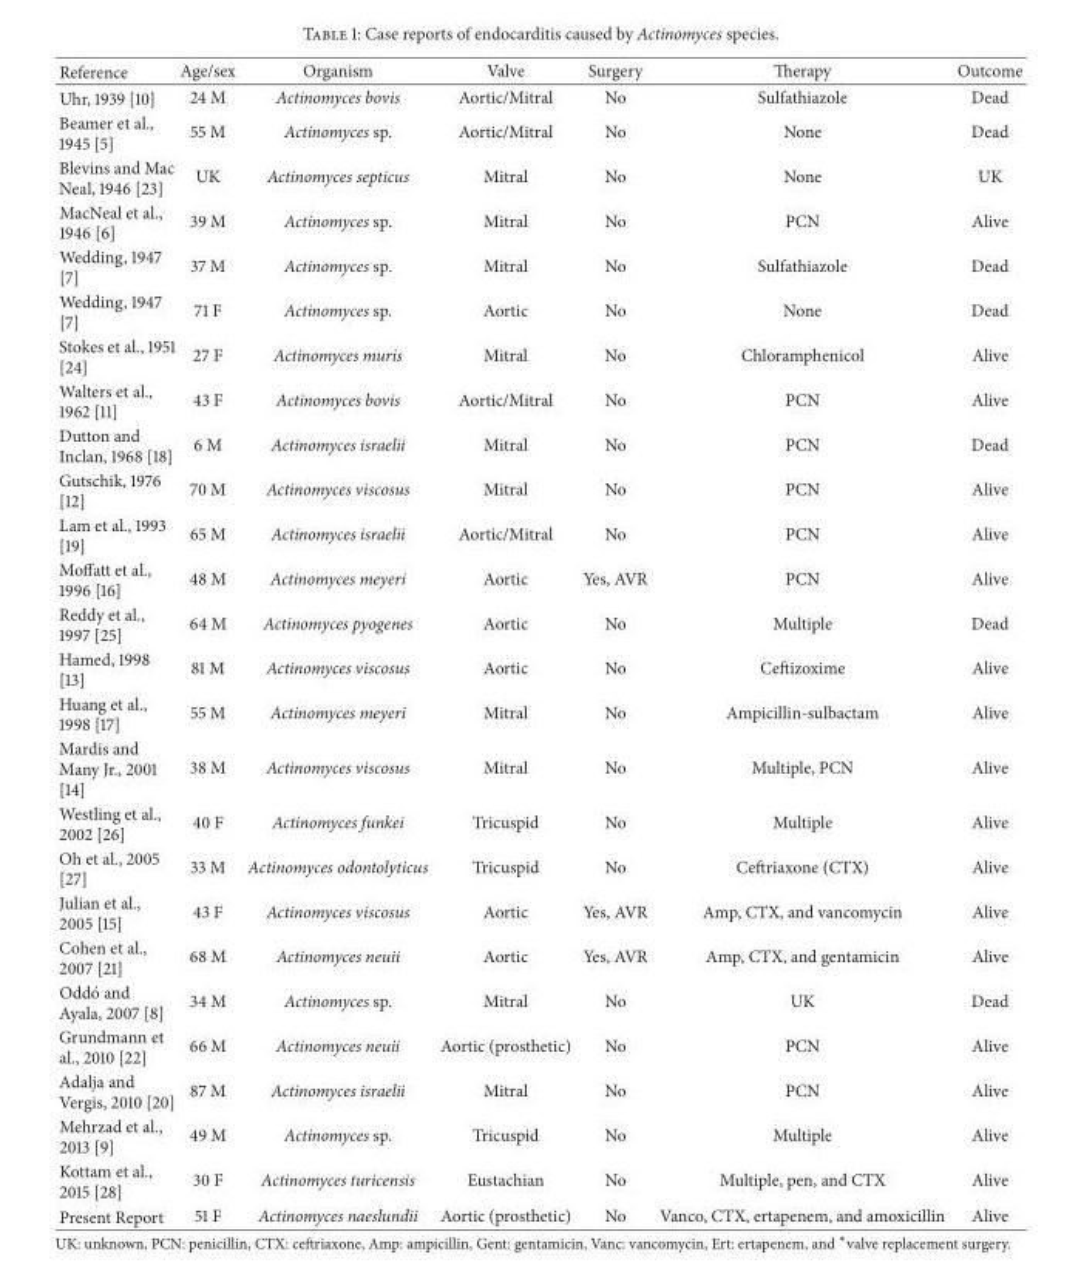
<table><thead><tr><td>Reference</td><td>Age/sex</td><td>Organism</td><td>Valve</td><td>Surgery</td><td>Therapy</td><td>Outcome</td></tr></thead><tbody><tr><td>Uhr, 1939 [10]</td><td>24 M</td><td>Actinomyces bovis</td><td>Aortic/Mitral</td><td>No</td><td>Sulfathiazole</td><td>Dead</td></tr><tr><td>Beamer et al., 1945 [5]</td><td>55 M</td><td>Actinomyces sp.</td><td>Aortic/Mitral</td><td>No</td><td>None</td><td>Dead</td></tr><tr><td>Blevins and Mac Neal, 1946 [23]</td><td>UK</td><td>Actinomyces septicus</td><td>Mitral</td><td>No</td><td>None</td><td>UK</td></tr><tr><td>MacNeal et al., 1946 [6]</td><td>39 M</td><td>Actinomyces sp.</td><td>Mitral</td><td>No</td><td>PCN</td><td>Alive</td></tr><tr><td>Wedding, 1947 [7]</td><td>37 M</td><td>Actinomyces sp.</td><td>Mitral</td><td>No</td><td>Sulfathiazole</td><td>Dead</td></tr><tr><td>Wedding, 1947 [7]</td><td>71 F</td><td>Actinomyces sp.</td><td>Aortic</td><td>No</td><td>None</td><td>Dead</td></tr><tr><td>Stokes et al., 1951 [24]</td><td>27 F</td><td>Actinomyces muris</td><td>Mitral</td><td>No</td><td>Chloramphenicol</td><td>Alive</td></tr><tr><td>Walters et al., 1962 [11]</td><td>43 F</td><td>Actinomyces bovis</td><td>Aortic/Mitral</td><td>No</td><td>PCN</td><td>Alive</td></tr><tr><td>Dutton and Inclan, 1968 [18]</td><td>6 M</td><td>Actinomyces israelii</td><td>Mitral</td><td>No</td><td>PCN</td><td>Dead</td></tr><tr><td>Gutschik, 1976 [12]</td><td>70 M</td><td>Actinomyces viscosus</td><td>Mitral</td><td>No</td><td>PCN</td><td>Alive</td></tr><tr><td>Lam et al., 1993 [19]</td><td>65 M</td><td>Actinomyces israelii</td><td>Aortic/Mitral</td><td>No</td><td>PCN</td><td>Alive</td></tr><tr><td>Moffatt et al., 1996 [16]</td><td>48 M</td><td>Actinomyces meyeri</td><td>Aortic</td><td>Yes, AVR</td><td>PCN</td><td>Alive</td></tr><tr><td>Reddy et al., 1997 [25]</td><td>64 M</td><td>Actinomyces pyogenes</td><td>Aortic</td><td>No</td><td>Multiple</td><td>Dead</td></tr><tr><td>Hamed, 1998 [13]</td><td>81 M</td><td>Actinomyces viscosus</td><td>Aortic</td><td>No</td><td>Ceftizoxime</td><td>Alive</td></tr><tr><td>Huang et al., 1998 [17]</td><td>55 M</td><td>Actinomyces meyeri</td><td>Mitral</td><td>No</td><td>Ampicillin-sulbactam</td><td>Alive</td></tr><tr><td>Mardis and Many Jr., 2001 [14]</td><td>38 M</td><td>Actinomyces viscosus</td><td>Mitral</td><td>No</td><td>Multiple, PCN</td><td>Alive</td></tr><tr><td>Westling et al., 2002 [26]</td><td>40 F</td><td>Actinomyces funkei</td><td>Tricuspid</td><td>No</td><td>Multiple</td><td>Alive</td></tr><tr><td>Oh et al., 2005 [27]</td><td>33 M</td><td>Actinomyces odontolyticus</td><td>Tricuspid</td><td>No</td><td>Ceftriaxone (CTX)</td><td>Alive</td></tr><tr><td>Julian et al., 2005 [15]</td><td>43 F</td><td>Actinomyces viscosus</td><td>Aortic</td><td>Yes, AVR</td><td>Amp, CTX, and vancomycin</td><td>Alive</td></tr><tr><td>Cohen et al., 2007 [21]</td><td>68 M</td><td>Actinomyces neuii</td><td>Aortic</td><td>Yes, AVR</td><td>Amp, CTX, and gentamicin</td><td>Alive</td></tr><tr><td>Odd´o and Ayala, 2007 [8]</td><td>34 M</td><td>Actinomyces sp.</td><td>Mitral</td><td>No</td><td>UK</td><td>Dead</td></tr><tr><td>Grundmann et al., 2010 [22]</td><td>66 M</td><td>Actinomyces neuii</td><td>Aortic (prosthetic)</td><td>No</td><td>PCN</td><td>Alive</td></tr><tr><td>Adalja and Vergis, 2010 [20]</td><td>87 M</td><td>Actinomyces israelii</td><td>Mitral</td><td>No</td><td>PCN</td><td>Alive</td></tr><tr><td>Mehrzad et al., 2013 [9]</td><td>49 M</td><td>Actinomyces sp.</td><td>Tricuspid</td><td>No</td><td>Multiple</td><td>Alive</td></tr><tr><td>Kottam et al., 2015 [28]</td><td>30 F</td><td>Actinomyces turicensis</td><td>Eustachian</td><td>No</td><td>Multiple, pen, and CTX</td><td>Alive</td></tr><tr><td>Present Report</td><td>51 F</td><td>Actinomyces naeslundii</td><td>Aortic (prosthetic)</td><td>No</td><td>Vanco, CTX, ertapenem, and amoxicillin</td><td>Alive</td></tr></tbody></table>